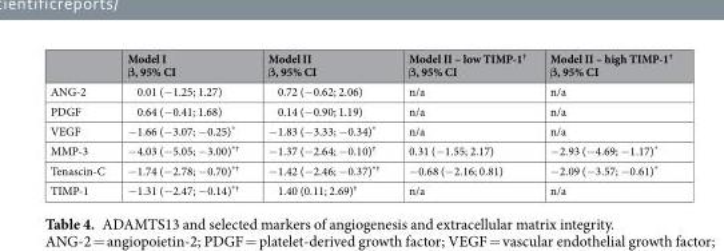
<table><thead><tr><td></td><td>Model I β, 95% CI</td><td>Model II β, 95% CI</td><td>Model II – low TIMP-1<sup>†</sup> β, 95% CI</td><td>Model II – high TIMP-1<sup>†</sup> β, 95% CI</td></tr></thead><tbody><tr><td>ANG-2</td><td>0.01 (−1.25; 1.27)</td><td>0.72 (−0.62; 2.06)</td><td>n/a</td><td>n/a</td></tr><tr><td>PDGF</td><td>0.64 (−0.41; 1.68)</td><td>0.14 (−0.90; 1.19)</td><td>n/a</td><td>n/a</td></tr><tr><td>VEGF</td><td>−1.66 (−3.07; −0.25)*</td><td>−1.83 (−3.33; −0.34)*</td><td>n/a</td><td>n/a</td></tr><tr><td>MMP-3</td><td>−4.03 (−5.05; −3.00)<sup>*†</sup></td><td>−1.37 (−2.64; −0.10)<sup>†</sup></td><td>0.31 (−1.55; 2.17)</td><td>−2.93 (−4.69; −1.17)*</td></tr><tr><td>Tenascin-C</td><td>−1.74 (−2.78; −0.70)<sup>*†</sup></td><td>−1.42 (−2.46; −0.37)<sup>*†</sup></td><td>−0.68 (−2.16; 0.81)</td><td>−2.09 (−3.57; −0.61)*</td></tr><tr><td>TIMP-1</td><td>−1.31 (−2.47; −0.14)<sup>*†</sup></td><td>1.40 (0.11; 2.69)<sup>†</sup></td><td>n/a</td><td>n/a</td></tr></tbody></table>